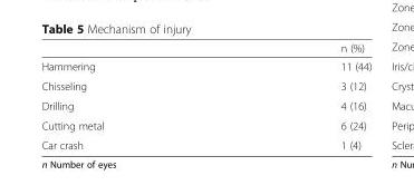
<table><thead><tr><td></td><td>n (%)</td></tr></thead><tbody><tr><td>Hammering</td><td>11 (44)</td></tr><tr><td>Chisseling</td><td>3 (12)</td></tr><tr><td>Drilling</td><td>4 (16)</td></tr><tr><td>Cutting metal</td><td>6 (24)</td></tr><tr><td>Car crash</td><td>1 (4)</td></tr></tbody></table>